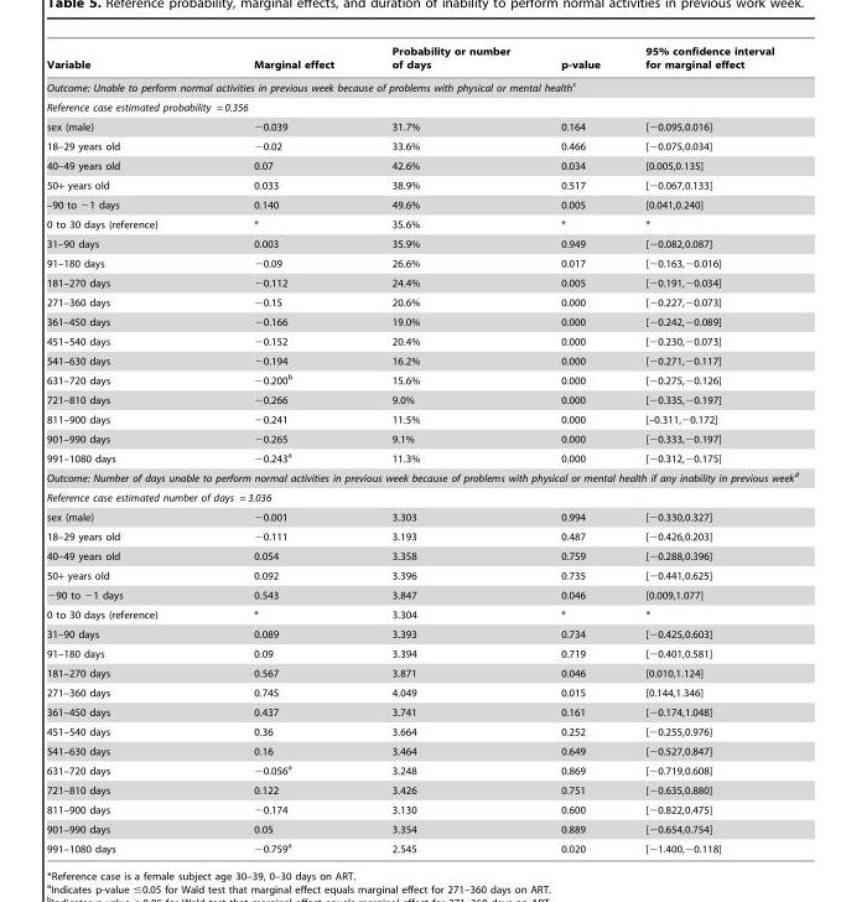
<table><thead><tr><td>Variable</td><td>Marginal effect</td><td>Probability or number of days</td><td>p-value</td><td>95% confidence interval for marginal effect</td></tr></thead><tbody><tr><td colspan="5">Outcome: Unable to perform normal activities in previous week because of problems with physical or mental health<sup>c</sup></td></tr><tr><td colspan="5">Reference case estimated probability = 0.356</td></tr><tr><td>sex (male)</td><td>−0.039</td><td>31.7%</td><td>0.164</td><td>[−0.095,0.016]</td></tr><tr><td>18–29 years old</td><td>−0.02</td><td>33.6%</td><td>0.466</td><td>[−0.075,0.034]</td></tr><tr><td>40–49 years old</td><td>0.07</td><td>42.6%</td><td>0.034</td><td>[0.005,0.135]</td></tr><tr><td>50+ years old</td><td>0.033</td><td>38.9%</td><td>0.517</td><td>[−0.067,0.133]</td></tr><tr><td>–90 to −1 days</td><td>0.140</td><td>49.6%</td><td>0.005</td><td>[0.041,0.240]</td></tr><tr><td>0 to 30 days (reference)</td><td>*</td><td>35.6%</td><td>*</td><td>*</td></tr><tr><td>31–90 days</td><td>0.003</td><td>35.9%</td><td>0.949</td><td>[−0.082,0.087]</td></tr><tr><td>91–180 days</td><td>−0.09</td><td>26.6%</td><td>0.017</td><td>[−0.163,−0.016]</td></tr><tr><td>181–270 days</td><td>−0.112</td><td>24.4%</td><td>0.005</td><td>[−0.191,−0.034]</td></tr><tr><td>271–360 days</td><td>−0.15</td><td>20.6%</td><td>0.000</td><td>[−0.227,−0.073]</td></tr><tr><td>361–450 days</td><td>−0.166</td><td>19.0%</td><td>0.000</td><td>[−0.242,−0.089]</td></tr><tr><td>451–540 days</td><td>−0.152</td><td>20.4%</td><td>0.000</td><td>[−0.230,−0.073]</td></tr><tr><td>541–630 days</td><td>−0.194</td><td>16.2%</td><td>0.000</td><td>[−0.271,−0.117]</td></tr><tr><td>631–720 days</td><td>−0.200<sup>b</sup></td><td>15.6%</td><td>0.000</td><td>[−0.275,−0.126]</td></tr><tr><td>721–810 days</td><td>−0.266</td><td>9.0%</td><td>0.000</td><td>[−0.335,−0.197]</td></tr><tr><td>811–900 days</td><td>−0.241</td><td>11.5%</td><td>0.000</td><td>[–0.311,−0.172]</td></tr><tr><td>901–990 days</td><td>−0.265</td><td>9.1%</td><td>0.000</td><td>[−0.333,−0.197]</td></tr><tr><td>991–1080 days</td><td>−0.243<sup>a</sup></td><td>11.3%</td><td>0.000</td><td>[−0.312,−0.175]</td></tr><tr><td colspan="5">Outcome: Number of days unable to perform normal activities in previous week because of problems with physical or mental health if any inability in previous week<sup>d</sup></td></tr><tr><td colspan="5">Reference case estimated number of days = 3.036</td></tr><tr><td>sex (male)</td><td>−0.001</td><td>3.303</td><td>0.994</td><td>[−0.330,0.327]</td></tr><tr><td>18–29 years old</td><td>−0.111</td><td>3.193</td><td>0.487</td><td>[−0.426,0.203]</td></tr><tr><td>40–49 years old</td><td>0.054</td><td>3.358</td><td>0.759</td><td>[−0.288,0.396]</td></tr><tr><td>50+ years old</td><td>0.092</td><td>3.396</td><td>0.735</td><td>[−0.441,0.625]</td></tr><tr><td>−90 to −1 days</td><td>0.543</td><td>3.847</td><td>0.046</td><td>[0.009,1.077]</td></tr><tr><td>0 to 30 days (reference)</td><td>*</td><td>3.304</td><td>*</td><td>*</td></tr><tr><td>31–90 days</td><td>0.089</td><td>3.393</td><td>0.734</td><td>[−0.425,0.603]</td></tr><tr><td>91–180 days</td><td>0.09</td><td>3.394</td><td>0.719</td><td>[−0.401,0.581]</td></tr><tr><td>181–270 days</td><td>0.567</td><td>3.871</td><td>0.046</td><td>[0.010,1.124]</td></tr><tr><td>271–360 days</td><td>0.745</td><td>4.049</td><td>0.015</td><td>[0.144,1.346]</td></tr><tr><td>361–450 days</td><td>0.437</td><td>3.741</td><td>0.161</td><td>[−0.174,1.048]</td></tr><tr><td>451–540 days</td><td>0.36</td><td>3.664</td><td>0.252</td><td>[−0.255,0.976]</td></tr><tr><td>541–630 days</td><td>0.16</td><td>3.464</td><td>0.649</td><td>[−0.527,0.847]</td></tr><tr><td>631–720 days</td><td>−0.056<sup>a</sup></td><td>3.248</td><td>0.869</td><td>[−0.719,0.608]</td></tr><tr><td>721–810 days</td><td>0.122</td><td>3.426</td><td>0.751</td><td>[−0.635,0.880]</td></tr><tr><td>811–900 days</td><td>−0.174</td><td>3.130</td><td>0.600</td><td>[−0.822,0.475]</td></tr><tr><td>901–990 days</td><td>0.05</td><td>3.354</td><td>0.889</td><td>[−0.654,0.754]</td></tr><tr><td>991–1080 days</td><td>−0.759<sup>a</sup></td><td>2.545</td><td>0.020</td><td>[−1.400,−0.118]</td></tr></tbody></table>